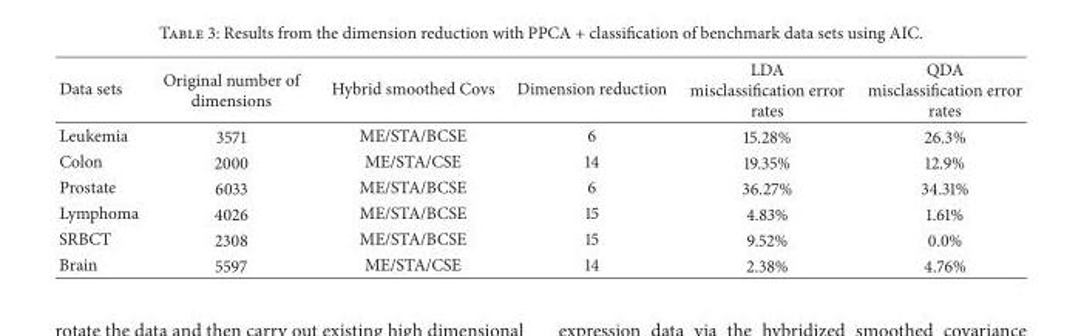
<table><thead><tr><td>Data sets</td><td>Original number of dimensions</td><td>Hybrid smoothed Covs</td><td>Dimension reduction</td><td>LDA misclassification error rates</td><td>QDA misclassification error rates</td></tr></thead><tbody><tr><td>Leukemia</td><td>3571</td><td>ME/STA/BCSE</td><td>6</td><td>15.28%</td><td>26.3%</td></tr><tr><td>Colon</td><td>2000</td><td>ME/STA/CSE</td><td>14</td><td>19.35%</td><td>12.9%</td></tr><tr><td>Prostate</td><td>6033</td><td>ME/STA/BCSE</td><td>6</td><td>36.27%</td><td>34.31%</td></tr><tr><td>Lymphoma</td><td>4026</td><td>ME/STA/BCSE</td><td>15</td><td>4.83%</td><td>1.61%</td></tr><tr><td>SRBCT</td><td>2308</td><td>ME/STA/BCSE</td><td>15</td><td>9.52%</td><td>0.0%</td></tr><tr><td>Brain</td><td>5597</td><td>ME/STA/CSE</td><td>14</td><td>2.38%</td><td>4.76%</td></tr></tbody></table>